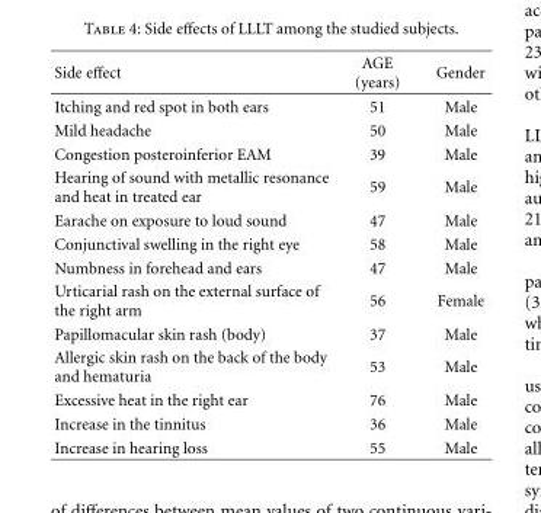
<table><thead><tr><td>Side effect</td><td>AGE (years)</td><td>Gender</td></tr></thead><tbody><tr><td>Itching and red spot in both ears</td><td>51</td><td>Male</td></tr><tr><td>Mild headache</td><td>50</td><td>Male</td></tr><tr><td>Congestion posteroinferior EAM</td><td>39</td><td>Male</td></tr><tr><td>Hearing of sound with metallic resonance and heat in treated ear</td><td>59</td><td>Male</td></tr><tr><td>Earache on exposure to loud sound</td><td>47</td><td>Male</td></tr><tr><td>Conjunctival swelling in the right eye</td><td>58</td><td>Male</td></tr><tr><td>Numbness in forehead and ears</td><td>47</td><td>Male</td></tr><tr><td>Urticarial rash on the external surface of the right arm</td><td>56</td><td>Female</td></tr><tr><td>Papillomacular skin rash (body)</td><td>37</td><td>Male</td></tr><tr><td>Allergic skin rash on the back of the body and hematuria</td><td>53</td><td>Male</td></tr><tr><td>Excessive heat in the right ear</td><td>76</td><td>Male</td></tr><tr><td>Increase in the tinnitus</td><td>36</td><td>Male</td></tr><tr><td>Increase in hearing loss</td><td>55</td><td>Male</td></tr></tbody></table>